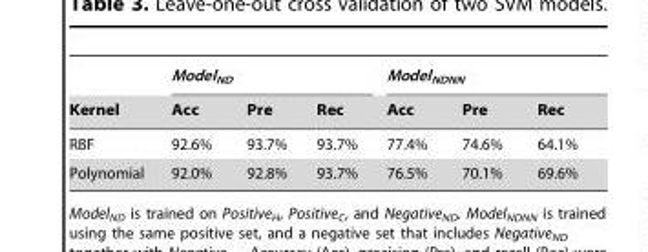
<table><thead><tr><td rowspan="2">Kernel</td><td colspan="3">Model<sub>ND</sub></td><td colspan="3">Model<sub>NDNN</sub></td></tr><tr><td>Acc</td><td>Pre</td><td>Rec</td><td>Acc</td><td>Pre</td><td>Rec</td></tr></thead><tbody><tr><td>RBF</td><td>92.6%</td><td>93.7%</td><td>93.7%</td><td>77.4%</td><td>74.6%</td><td>64.1%</td></tr><tr><td>Polynomial</td><td>92.0%</td><td>92.8%</td><td>93.7%</td><td>76.5%</td><td>70.1%</td><td>69.6%</td></tr></tbody></table>